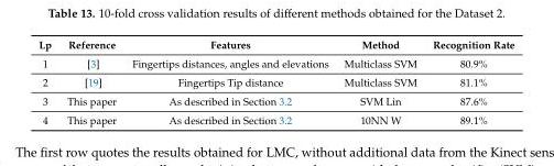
<table><thead><tr><td>Lp</td><td>Reference</td><td>Features</td><td>Method</td><td>Recognition Rate</td></tr></thead><tbody><tr><td>1</td><td>[3]</td><td>Fingertips distances, angles and elevations</td><td>Multiclass SVM</td><td>80.9%</td></tr><tr><td>2</td><td>[19]</td><td>Fingertips Tip distance</td><td>Multiclass SVM</td><td>81.1%</td></tr><tr><td>3</td><td>This paper</td><td>As described in Section 3.2</td><td>SVM Lin</td><td>87.6%</td></tr><tr><td>4</td><td>This paper</td><td>As described in Section 3.2</td><td>10NN W</td><td>89.1%</td></tr></tbody></table>